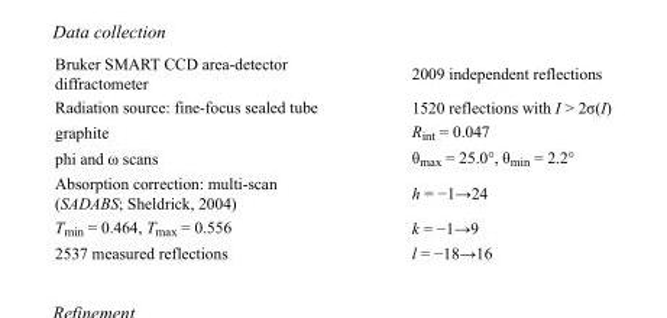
<table><tbody><tr><td>Bruker SMART CCD area-detector diffractometer</td><td>2009 independent reflections</td></tr><tr><td>Radiation source: fine-focus sealed tube</td><td>1520 reflections with I &gt; 2σ(I)</td></tr><tr><td>graphite</td><td>R<sub>int</sub> = 0.047</td></tr><tr><td>phi and ω scans</td><td>θ<sub>max</sub> = 25.0°, θ<sub>min</sub> = 2.2°</td></tr><tr><td>Absorption correction: multi-scan (SADABS; Sheldrick, 2004)</td><td>h = −1→24</td></tr><tr><td>T<sub>min</sub> = 0.464, T<sub>max</sub> = 0.556</td><td>k = −1→9</td></tr><tr><td>2537 measured reflections</td><td>l = −18→16</td></tr></tbody></table>